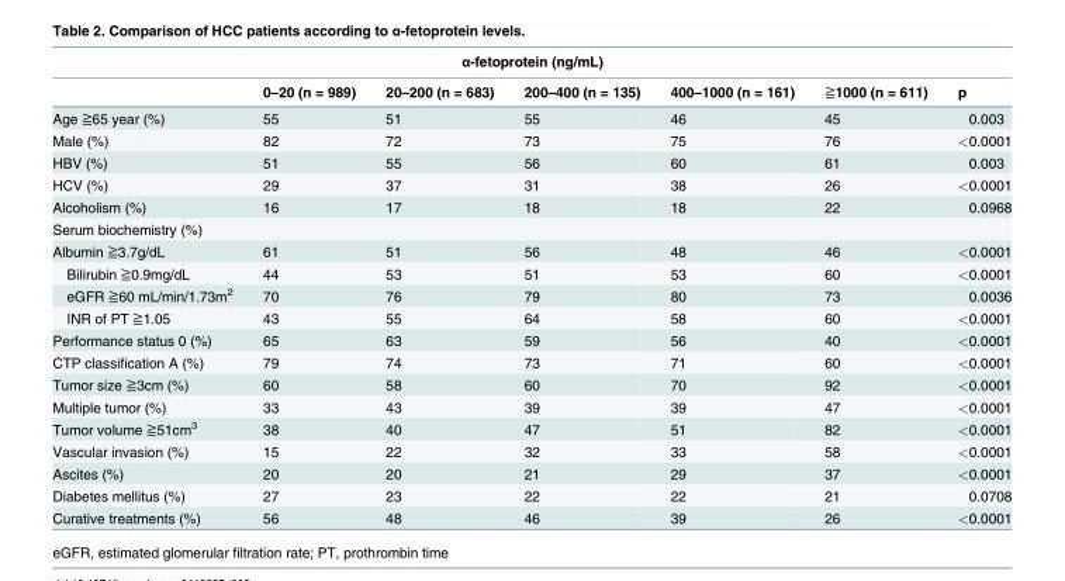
<table><thead><tr><td colspan="7">α-fetoprotein (ng/mL)</td></tr><tr><td></td><td>0–20 (n = 989)</td><td>20–200 (n = 683)</td><td>200–400 (n = 135)</td><td>400–1000 (n = 161)</td><td>≧1000 (n = 611)</td><td>p</td></tr></thead><tbody><tr><td>Age ≧65 year (%)</td><td>55</td><td>51</td><td>55</td><td>46</td><td>45</td><td>0.003</td></tr><tr><td>Male (%)</td><td>82</td><td>72</td><td>73</td><td>75</td><td>76</td><td>&lt;0.0001</td></tr><tr><td>HBV (%)</td><td>51</td><td>55</td><td>56</td><td>60</td><td>61</td><td>0.003</td></tr><tr><td>HCV (%)</td><td>29</td><td>37</td><td>31</td><td>38</td><td>26</td><td>&lt;0.0001</td></tr><tr><td>Alcoholism (%)</td><td>16</td><td>17</td><td>18</td><td>18</td><td>22</td><td>0.0968</td></tr><tr><td colspan="7">Serum biochemistry (%)</td></tr><tr><td>Albumin ≧3.7g/dL</td><td>61</td><td>51</td><td>56</td><td>48</td><td>46</td><td>&lt;0.0001</td></tr><tr><td>Bilirubin ≧0.9mg/dL</td><td>44</td><td>53</td><td>51</td><td>53</td><td>60</td><td>&lt;0.0001</td></tr><tr><td>eGFR ≧60 mL/min/1.73m<sup>2</sup></td><td>70</td><td>76</td><td>79</td><td>80</td><td>73</td><td>0.0036</td></tr><tr><td>INR of PT ≧1.05</td><td>43</td><td>55</td><td>64</td><td>58</td><td>60</td><td>&lt;0.0001</td></tr><tr><td>Performance status 0 (%)</td><td>65</td><td>63</td><td>59</td><td>56</td><td>40</td><td>&lt;0.0001</td></tr><tr><td>CTP classification A (%)</td><td>79</td><td>74</td><td>73</td><td>71</td><td>60</td><td>&lt;0.0001</td></tr><tr><td>Tumor size ≧3cm (%)</td><td>60</td><td>58</td><td>60</td><td>70</td><td>92</td><td>&lt;0.0001</td></tr><tr><td>Multiple tumor (%)</td><td>33</td><td>43</td><td>39</td><td>39</td><td>47</td><td>&lt;0.0001</td></tr><tr><td>Tumor volume ≧51cm<sup>3</sup></td><td>38</td><td>40</td><td>47</td><td>51</td><td>82</td><td>&lt;0.0001</td></tr><tr><td>Vascular invasion (%)</td><td>15</td><td>22</td><td>32</td><td>33</td><td>58</td><td>&lt;0.0001</td></tr><tr><td>Ascites (%)</td><td>20</td><td>20</td><td>21</td><td>29</td><td>37</td><td>&lt;0.0001</td></tr><tr><td>Diabetes mellitus (%)</td><td>27</td><td>23</td><td>22</td><td>22</td><td>21</td><td>0.0708</td></tr><tr><td>Curative treatments (%)</td><td>56</td><td>48</td><td>46</td><td>39</td><td>26</td><td>&lt;0.0001</td></tr></tbody></table>